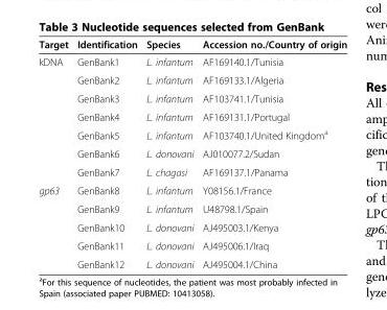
<table><thead><tr><td>Target</td><td>Identification</td><td>Species</td><td>Accession no./Country of origin</td></tr></thead><tbody><tr><td rowspan="7">kDNA</td><td>GenBank1</td><td>L. infantum</td><td>AF169140.1/Tunisia</td></tr><tr><td>GenBank2</td><td>L. infantum</td><td>AF169133.1/Algeria</td></tr><tr><td>GenBank3</td><td>L. infantum</td><td>AF103741.1/Tunisia</td></tr><tr><td>GenBank4</td><td>L. infantum</td><td>AF169131.1/Portugal</td></tr><tr><td>GenBank5</td><td>L. infantum</td><td>AF103740.1/United Kingdom<sup>a</sup></td></tr><tr><td>GenBank6</td><td>L. donovani</td><td>AJ010077.2/Sudan</td></tr><tr><td>GenBank7</td><td>L. chagasi</td><td>AF169137.1/Panama</td></tr><tr><td rowspan="5">gp63</td><td>GenBank8</td><td>L. infantum</td><td>Y08156.1/France</td></tr><tr><td>GenBank9</td><td>L. infantum</td><td>U48798.1/Spain</td></tr><tr><td>GenBank10</td><td>L. donovani</td><td>AJ495003.1/Kenya</td></tr><tr><td>GenBank11</td><td>L. donovani</td><td>AJ495006.1/Iraq</td></tr><tr><td>GenBank12</td><td>L. donovani</td><td>AJ495004.1/China</td></tr></tbody></table>